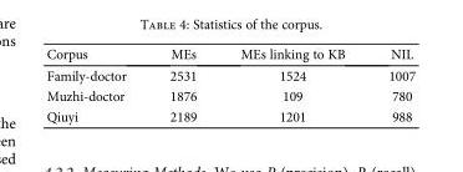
<table><thead><tr><td>Corpus</td><td>MEs</td><td>MEs linking to KB</td><td>NIL</td></tr></thead><tbody><tr><td>Family-doctor</td><td>2531</td><td>1524</td><td>1007</td></tr><tr><td>Muzhi-doctor</td><td>1876</td><td>109</td><td>780</td></tr><tr><td>Qiuyi</td><td>2189</td><td>1201</td><td>988</td></tr></tbody></table>